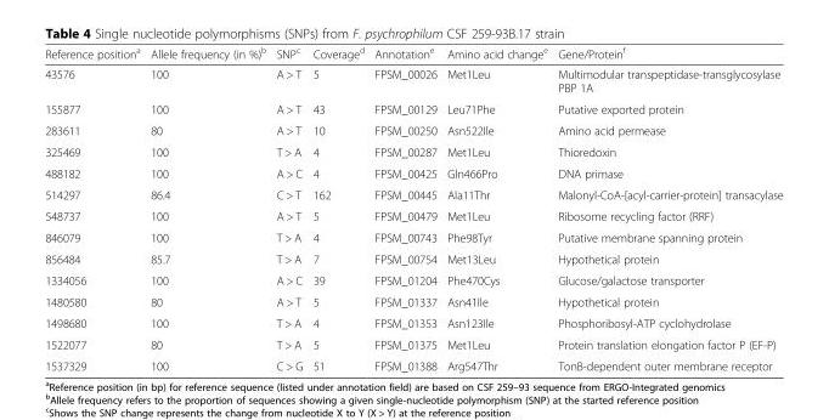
<table><thead><tr><td>Reference position<sup>a</sup></td><td>Allele frequency (in %)<sup>b</sup></td><td>SNP<sup>c</sup></td><td>Coverage<sup>d</sup></td><td>Annotation<sup>e</sup></td><td>Amino acid change<sup>e</sup></td><td>Gene/Protein<sup>f</sup></td></tr></thead><tbody><tr><td>43576</td><td>100</td><td>A &gt; T</td><td>5</td><td>FPSM_00026</td><td>Met1Leu</td><td>Multimodular transpeptidase-transglycosylase PBP 1A</td></tr><tr><td>155877</td><td>100</td><td>A &gt; T</td><td>43</td><td>FPSM_00129</td><td>Leu71Phe</td><td>Putative exported protein</td></tr><tr><td>283611</td><td>80</td><td>A &gt; T</td><td>10</td><td>FPSM_00250</td><td>Asn522Ile</td><td>Amino acid permease</td></tr><tr><td>325469</td><td>100</td><td>T &gt; A</td><td>4</td><td>FPSM_00287</td><td>Met1Leu</td><td>Thioredoxin</td></tr><tr><td>488182</td><td>100</td><td>A &gt; C</td><td>4</td><td>FPSM_00425</td><td>Gln466Pro</td><td>DNA primase</td></tr><tr><td>514297</td><td>86.4</td><td>C &gt; T</td><td>162</td><td>FPSM_00445</td><td>Ala11Thr</td><td>Malonyl-CoA-[acyl-carrier-protein] transacylase</td></tr><tr><td>548737</td><td>100</td><td>A &gt; T</td><td>5</td><td>FPSM_00479</td><td>Met1Leu</td><td>Ribosome recycling factor (RRF)</td></tr><tr><td>846079</td><td>100</td><td>T &gt; A</td><td>4</td><td>FPSM_00743</td><td>Phe98Tyr</td><td>Putative membrane spanning protein</td></tr><tr><td>856484</td><td>85.7</td><td>T &gt; A</td><td>7</td><td>FPSM_00754</td><td>Met13Leu</td><td>Hypothetical protein</td></tr><tr><td>1334056</td><td>100</td><td>A &gt; C</td><td>39</td><td>FPSM_01204</td><td>Phe470Cys</td><td>Glucose/galactose transporter</td></tr><tr><td>1480580</td><td>80</td><td>A &gt; T</td><td>5</td><td>FPSM_01337</td><td>Asn41Ile</td><td>Hypothetical protein</td></tr><tr><td>1498680</td><td>100</td><td>T &gt; A</td><td>4</td><td>FPSM_01353</td><td>Asn123Ile</td><td>Phosphoribosyl-ATP cyclohydrolase</td></tr><tr><td>1522077</td><td>80</td><td>T &gt; A</td><td>5</td><td>FPSM_01375</td><td>Met1Leu</td><td>Protein translation elongation factor P (EF-P)</td></tr><tr><td>1537329</td><td>100</td><td>C &gt; G</td><td>51</td><td>FPSM_01388</td><td>Arg547Thr</td><td>TonB-dependent outer membrane receptor</td></tr></tbody></table>